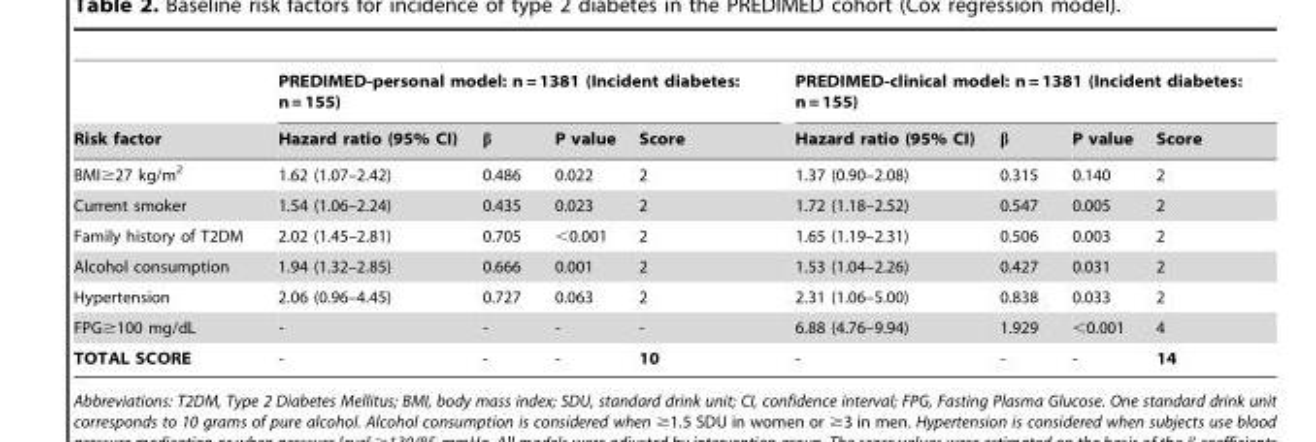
<table><thead><tr><td rowspan="2">Risk factor</td><td colspan="4">PREDIMED-personal model: n = 1381 (Incident diabetes: n = 155)</td><td colspan="4">PREDIMED-clinical model: n = 1381 (Incident diabetes: n = 155)</td></tr><tr><td>Hazard ratio (95% CI)</td><td>β</td><td>P value</td><td>Score</td><td>Hazard ratio (95% CI)</td><td>β</td><td>P value</td><td>Score</td></tr></thead><tbody><tr><td>BMI≥27 kg/m<sup>2</sup></td><td>1.62 (1.07–2.42)</td><td>0.486</td><td>0.022</td><td>2</td><td>1.37 (0.90–2.08)</td><td>0.315</td><td>0.140</td><td>2</td></tr><tr><td>Current smoker</td><td>1.54 (1.06–2.24)</td><td>0.435</td><td>0.023</td><td>2</td><td>1.72 (1.18–2.52)</td><td>0.547</td><td>0.005</td><td>2</td></tr><tr><td>Family history of T2DM</td><td>2.02 (1.45–2.81)</td><td>0.705</td><td>&lt;0.001</td><td>2</td><td>1.65 (1.19–2.31)</td><td>0.506</td><td>0.003</td><td>2</td></tr><tr><td>Alcohol consumption</td><td>1.94 (1.32–2.85)</td><td>0.666</td><td>0.001</td><td>2</td><td>1.53 (1.04–2.26)</td><td>0.427</td><td>0.031</td><td>2</td></tr><tr><td>Hypertension</td><td>2.06 (0.96–4.45)</td><td>0.727</td><td>0.063</td><td>2</td><td>2.31 (1.06–5.00)</td><td>0.838</td><td>0.033</td><td>2</td></tr><tr><td>FPG≥100 mg/dL</td><td>-</td><td>-</td><td>-</td><td>-</td><td>6.88 (4.76–9.94)</td><td>1.929</td><td>&lt;0.001</td><td>4</td></tr><tr><td>TOTAL SCORE</td><td>-</td><td>-</td><td>-</td><td>10</td><td>-</td><td>-</td><td>-</td><td>14</td></tr></tbody></table>